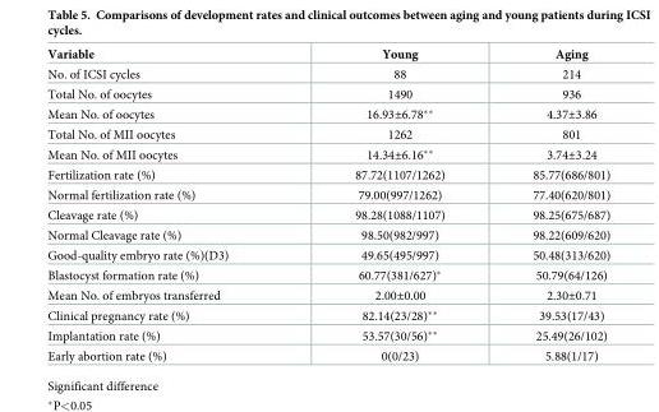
<table><thead><tr><td>Variable</td><td>Young</td><td>Aging</td></tr></thead><tbody><tr><td>No. of ICSI cycles</td><td>88</td><td>214</td></tr><tr><td>Total No. of oocytes</td><td>1490</td><td>936</td></tr><tr><td>Mean No. of oocytes</td><td>16.93±6.78**</td><td>4.37±3.86</td></tr><tr><td>Total No. of MII oocytes</td><td>1262</td><td>801</td></tr><tr><td>Mean No. of MII oocytes</td><td>14.34±6.16**</td><td>3.74±3.24</td></tr><tr><td>Fertilization rate (%)</td><td>87.72(1107/1262)</td><td>85.77(686/801)</td></tr><tr><td>Normal fertilization rate (%)</td><td>79.00(997/1262)</td><td>77.40(620/801)</td></tr><tr><td>Cleavage rate (%)</td><td>98.28(1088/1107)</td><td>98.25(675/687)</td></tr><tr><td>Normal Cleavage rate (%)</td><td>98.50(982/997)</td><td>98.22(609/620)</td></tr><tr><td>Good-quality embryo rate (%)(D3)</td><td>49.65(495/997)</td><td>50.48(313/620)</td></tr><tr><td>Blastocyst formation rate (%)</td><td>60.77(381/627)*</td><td>50.79(64/126)</td></tr><tr><td>Mean No. of embryos transferred</td><td>2.00±0.00</td><td>2.30±0.71</td></tr><tr><td>Clinical pregnancy rate (%)</td><td>82.14(23/28)**</td><td>39.53(17/43)</td></tr><tr><td>Implantation rate (%)</td><td>53.57(30/56)**</td><td>25.49(26/102)</td></tr><tr><td>Early abortion rate (%)</td><td>0(0/23)</td><td>5.88(1/17)</td></tr></tbody></table>